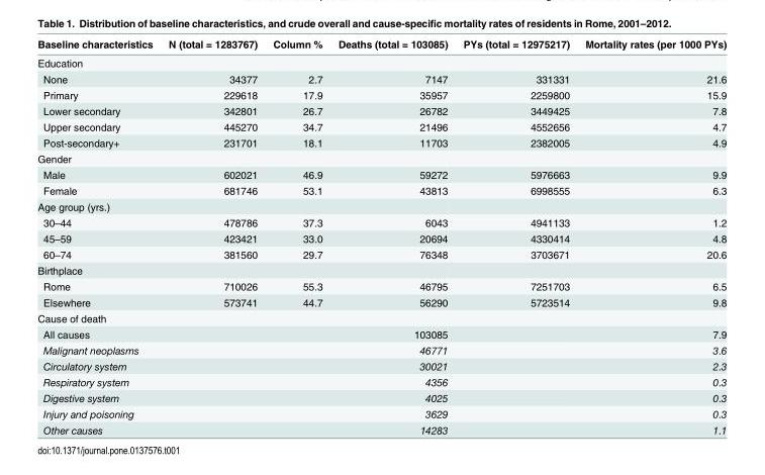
<table><thead><tr><td>Baseline characteristics</td><td>N (total = 1283767)</td><td>Column %</td><td>Deaths (total = 103085)</td><td>PYs (total = 12975217)</td><td>Mortality rates (per 1000 PYs)</td></tr></thead><tbody><tr><td colspan="6">Education</td></tr><tr><td>None</td><td>34377</td><td>2.7</td><td>7147</td><td>331331</td><td>21.6</td></tr><tr><td>Primary</td><td>229618</td><td>17.9</td><td>35957</td><td>2259800</td><td>15.9</td></tr><tr><td>Lower secondary</td><td>342801</td><td>26.7</td><td>26782</td><td>3449425</td><td>7.8</td></tr><tr><td>Upper secondary</td><td>445270</td><td>34.7</td><td>21496</td><td>4552656</td><td>4.7</td></tr><tr><td>Post-secondary+</td><td>231701</td><td>18.1</td><td>11703</td><td>2382005</td><td>4.9</td></tr><tr><td colspan="6">Gender</td></tr><tr><td>Male</td><td>602021</td><td>46.9</td><td>59272</td><td>5976663</td><td>9.9</td></tr><tr><td>Female</td><td>681746</td><td>53.1</td><td>43813</td><td>6998555</td><td>6.3</td></tr><tr><td colspan="6">Age group (yrs.)</td></tr><tr><td>30–44</td><td>478786</td><td>37.3</td><td>6043</td><td>4941133</td><td>1.2</td></tr><tr><td>45–59</td><td>423421</td><td>33.0</td><td>20694</td><td>4330414</td><td>4.8</td></tr><tr><td>60–74</td><td>381560</td><td>29.7</td><td>76348</td><td>3703671</td><td>20.6</td></tr><tr><td colspan="6">Birthplace</td></tr><tr><td>Rome</td><td>710026</td><td>55.3</td><td>46795</td><td>7251703</td><td>6.5</td></tr><tr><td>Elsewhere</td><td>573741</td><td>44.7</td><td>56290</td><td>5723514</td><td>9.8</td></tr><tr><td colspan="6">Cause of death</td></tr><tr><td>All causes</td><td></td><td></td><td>103085</td><td></td><td>7.9</td></tr><tr><td>Malignant neoplasms</td><td></td><td></td><td>46771</td><td></td><td>3.6</td></tr><tr><td>Circulatory system</td><td></td><td></td><td>30021</td><td></td><td>2.3</td></tr><tr><td>Respiratory system</td><td></td><td></td><td>4356</td><td></td><td>0.3</td></tr><tr><td>Digestive system</td><td></td><td></td><td>4025</td><td></td><td>0.3</td></tr><tr><td>Injury and poisoning</td><td></td><td></td><td>3629</td><td></td><td>0.3</td></tr><tr><td>Other causes</td><td></td><td></td><td>14283</td><td></td><td>1.1</td></tr></tbody></table>